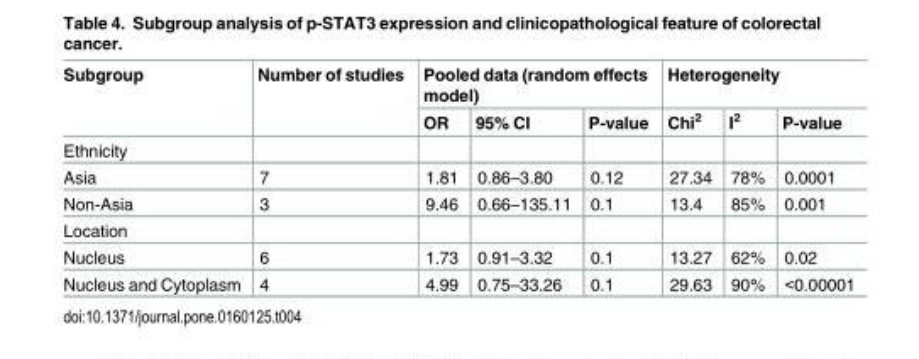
<table><thead><tr><td rowspan="2">Subgroup</td><td rowspan="2">Number of studies</td><td colspan="3">Pooled data (random effects model)</td><td colspan="3">Heterogeneity</td></tr><tr><td>OR</td><td>95% CI</td><td>P-value</td><td>Chi<sup>2</sup></td><td>I<sup>2</sup></td><td>P-value</td></tr></thead><tbody><tr><td colspan="8">Ethnicity</td></tr><tr><td>Asia</td><td>7</td><td>1.81</td><td>0.86–3.80</td><td>0.12</td><td>27.34</td><td>78%</td><td>0.0001</td></tr><tr><td>Non-Asia</td><td>3</td><td>9.46</td><td>0.66–135.11</td><td>0.1</td><td>13.4</td><td>85%</td><td>0.001</td></tr><tr><td colspan="8">Location</td></tr><tr><td>Nucleus</td><td>6</td><td>1.73</td><td>0.91–3.32</td><td>0.1</td><td>13.27</td><td>62%</td><td>0.02</td></tr><tr><td>Nucleus and Cytoplasm</td><td>4</td><td>4.99</td><td>0.75–33.26</td><td>0.1</td><td>29.63</td><td>90%</td><td>&lt;0.00001</td></tr></tbody></table>